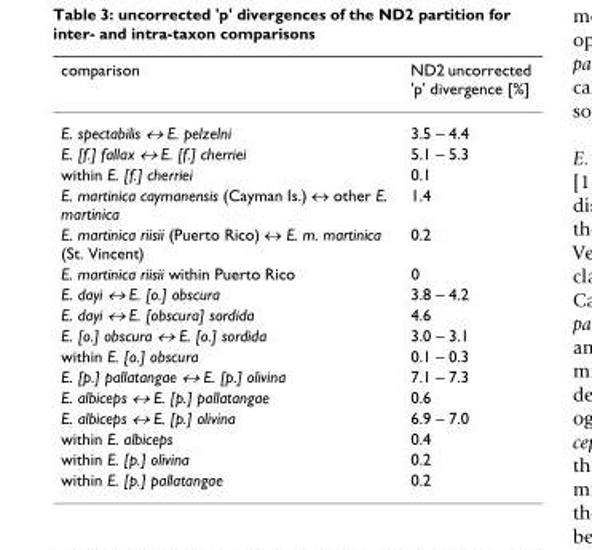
<table><thead><tr><td>comparison</td><td>ND2 uncorrected &#x27;p&#x27; divergence [%]</td></tr></thead><tbody><tr><td>E. spectabilis ↔ E. pelzelni</td><td>3.5 – 4.4</td></tr><tr><td>E. [f.] fallax ↔ E. [f.] cherriei</td><td>5.1 – 5.3</td></tr><tr><td>within E. [f.] cherriei</td><td>0.1</td></tr><tr><td>E. martinica caymanensis (Cayman Is.) ↔ other E. martinica</td><td>1.4</td></tr><tr><td>E. martinica riisii (Puerto Rico) ↔ E. m. martinica (St. Vincent)</td><td>0.2</td></tr><tr><td>E. martinica riisii within Puerto Rico</td><td>0</td></tr><tr><td>E. dayi ↔ E. [o.] obscura</td><td>3.8 – 4.2</td></tr><tr><td>E. dayi ↔ E. [obscura] sordida</td><td>4.6</td></tr><tr><td>E. [o.] obscura ↔ E. [o.] sordida</td><td>3.0 – 3.1</td></tr><tr><td>within E. [o.] obscura</td><td>0.1 – 0.3</td></tr><tr><td>E. [p.] pallatangae ↔ E. [p.] olivina</td><td>7.1 – 7.3</td></tr><tr><td>E. albiceps ↔ E. [p.] pallatangae</td><td>0.6</td></tr><tr><td>E. albiceps ↔ E. [p.] olivina</td><td>6.9 – 7.0</td></tr><tr><td>within E. albiceps</td><td>0.4</td></tr><tr><td>within E. [p.] olivina</td><td>0.2</td></tr><tr><td>within E. [p.] pallatangae</td><td>0.2</td></tr></tbody></table>